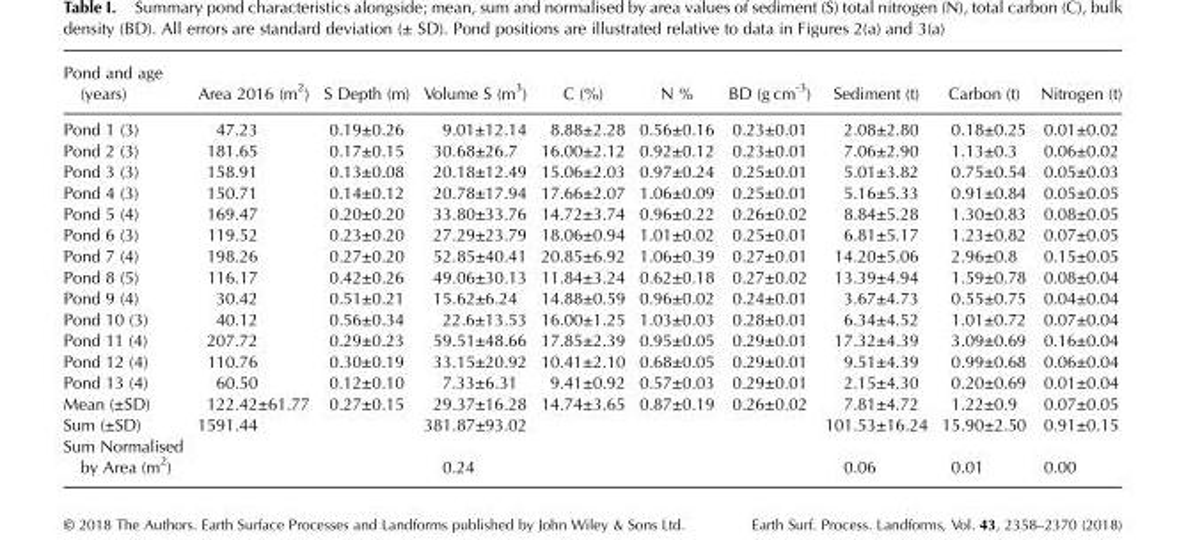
<table><thead><tr><td>Pond and age (years)</td><td>Area 2016 (m<sup>2</sup>)</td><td>S Depth (m)</td><td>Volume S (m<sup>3</sup>)</td><td>C (%)</td><td>N %</td><td>BD (g cm<sup>-3</sup>)</td><td>Sediment (t)</td><td>Carbon (t)</td><td>Nitrogen (t)</td></tr></thead><tbody><tr><td>Pond 1 (3)</td><td>47.23</td><td>0.19±0.26</td><td>9.01±12.14</td><td>8.88±2.28</td><td>0.56±0.16</td><td>0.23±0.01</td><td>2.08±2.80</td><td>0.18±0.25</td><td>0.01±0.02</td></tr><tr><td>Pond 2 (3)</td><td>181.65</td><td>0.17±0.15</td><td>30.68±26.7</td><td>16.00±2.12</td><td>0.92±0.12</td><td>0.23±0.01</td><td>7.06±2.90</td><td>1.13±0.3</td><td>0.06±0.02</td></tr><tr><td>Pond 3 (3)</td><td>158.91</td><td>0.13±0.08</td><td>20.18±12.49</td><td>15.06±2.03</td><td>0.97±0.24</td><td>0.25±0.01</td><td>5.01±3.82</td><td>0.75±0.54</td><td>0.05±0.03</td></tr><tr><td>Pond 4 (3)</td><td>150.71</td><td>0.14±0.12</td><td>20.78±17.94</td><td>17.66±2.07</td><td>1.06±0.09</td><td>0.25±0.01</td><td>5.16±5.33</td><td>0.91±0.84</td><td>0.05±0.05</td></tr><tr><td>Pond 5 (4)</td><td>169.47</td><td>0.20±0.20</td><td>33.80±33.76</td><td>14.72±3.74</td><td>0.96±0.22</td><td>0.26±0.02</td><td>8.84±5.28</td><td>1.30±0.83</td><td>0.08±0.05</td></tr><tr><td>Pond 6 (3)</td><td>119.52</td><td>0.23±0.20</td><td>27.29±23.79</td><td>18.06±0.94</td><td>1.01±0.02</td><td>0.25±0.01</td><td>6.81±5.17</td><td>1.23±0.82</td><td>0.07±0.05</td></tr><tr><td>Pond 7 (4)</td><td>198.26</td><td>0.27±0.20</td><td>52.85±40.41</td><td>20.85±6.92</td><td>1.06±0.39</td><td>0.27±0.01</td><td>14.20±5.06</td><td>2.96±0.8</td><td>0.15±0.05</td></tr><tr><td>Pond 8 (5)</td><td>116.17</td><td>0.42±0.26</td><td>49.06±30.13</td><td>11.84±3.24</td><td>0.62±0.18</td><td>0.27±0.02</td><td>13.39±4.94</td><td>1.59±0.78</td><td>0.08±0.04</td></tr><tr><td>Pond 9 (4)</td><td>30.42</td><td>0.51±0.21</td><td>15.62±6.24</td><td>14.88±0.59</td><td>0.96±0.02</td><td>0.24±0.01</td><td>3.67±4.73</td><td>0.55±0.75</td><td>0.04±0.04</td></tr><tr><td>Pond 10 (3)</td><td>40.12</td><td>0.56±0.34</td><td>22.6±13.53</td><td>16.00±1.25</td><td>1.03±0.03</td><td>0.28±0.01</td><td>6.34±4.52</td><td>1.01±0.72</td><td>0.07±0.04</td></tr><tr><td>Pond 11 (4)</td><td>207.72</td><td>0.29±0.23</td><td>59.51±48.66</td><td>17.85±2.39</td><td>0.95±0.05</td><td>0.29±0.01</td><td>17.32±4.39</td><td>3.09±0.69</td><td>0.16±0.04</td></tr><tr><td>Pond 12 (4)</td><td>110.76</td><td>0.30±0.19</td><td>33.15±20.92</td><td>10.41±2.10</td><td>0.68±0.05</td><td>0.29±0.01</td><td>9.51±4.39</td><td>0.99±0.68</td><td>0.06±0.04</td></tr><tr><td>Pond 13 (4)</td><td>60.50</td><td>0.12±0.10</td><td>7.33±6.31</td><td>9.41±0.92</td><td>0.57±0.03</td><td>0.29±0.01</td><td>2.15±4.30</td><td>0.20±0.69</td><td>0.01±0.04</td></tr><tr><td>Mean (±SD)</td><td>122.42±61.77</td><td>0.27±0.15</td><td>29.37±16.28</td><td>14.74±3.65</td><td>0.87±0.19</td><td>0.26±0.02</td><td>7.81±4.72</td><td>1.22±0.9</td><td>0.07±0.05</td></tr><tr><td>Sum (±SD)</td><td>1591.44</td><td></td><td>381.87±93.02</td><td></td><td></td><td></td><td>101.53±16.24</td><td>15.90±2.50</td><td>0.91±0.15</td></tr><tr><td>Sum Normalised by Area (m<sup>2</sup>)</td><td></td><td></td><td>0.24</td><td></td><td></td><td></td><td>0.06</td><td>0.01</td><td>0.00</td></tr></tbody></table>